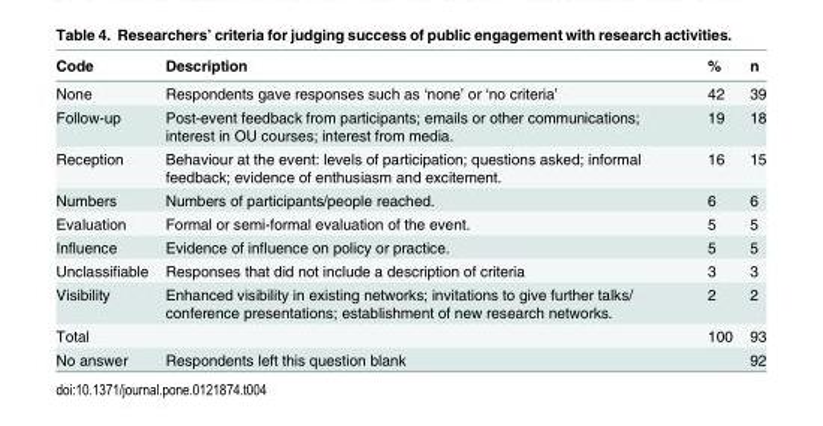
<table><thead><tr><td>Code</td><td>Description</td><td>%</td><td>n</td></tr></thead><tbody><tr><td>None</td><td>Respondents gave responses such as ‘none’ or ‘no criteria’</td><td>42</td><td>39</td></tr><tr><td>Follow-up</td><td>Post-event feedback from participants; emails or other communications; interest in OU courses; interest from media.</td><td>19</td><td>18</td></tr><tr><td>Reception</td><td>Behaviour at the event: levels of participation; questions asked; informal feedback; evidence of enthusiasm and excitement.</td><td>16</td><td>15</td></tr><tr><td>Numbers</td><td>Numbers of participants/people reached.</td><td>6</td><td>6</td></tr><tr><td>Evaluation</td><td>Formal or semi-formal evaluation of the event.</td><td>5</td><td>5</td></tr><tr><td>Influence</td><td>Evidence of influence on policy or practice.</td><td>5</td><td>5</td></tr><tr><td>Unclassifiable</td><td>Responses that did not include a description of criteria</td><td>3</td><td>3</td></tr><tr><td>Visibility</td><td>Enhanced visibility in existing networks; invitations to give further talks/ conference presentations; establishment of new research networks.</td><td>2</td><td>2</td></tr><tr><td>Total</td><td></td><td>100</td><td>93</td></tr><tr><td>No answer</td><td>Respondents left this question blank</td><td></td><td>92</td></tr></tbody></table>